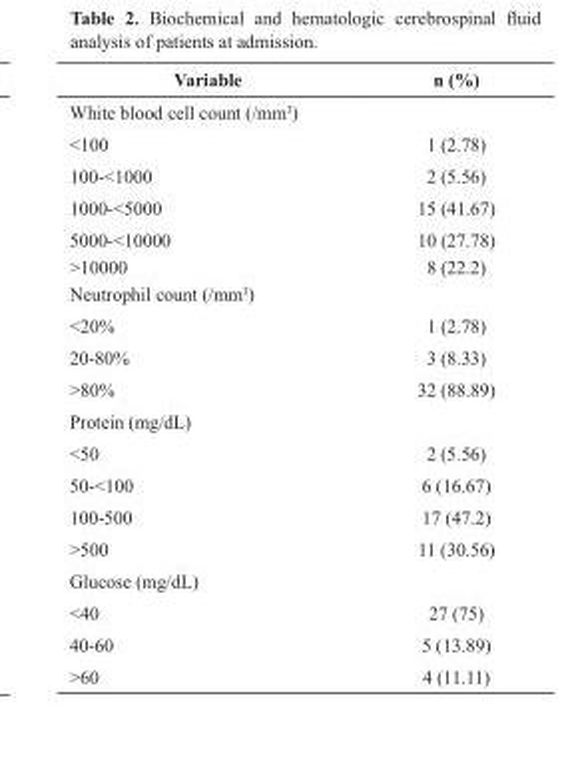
<table><thead><tr><td>Variable</td><td>n (%)</td></tr></thead><tbody><tr><td colspan="2">White blood cell count (/mm<sup>3</sup>)</td></tr><tr><td>&lt;100</td><td>1 (2.78)</td></tr><tr><td>100-&lt;1000</td><td>2 (5.56)</td></tr><tr><td>1000-&lt;5000</td><td>15 (41.67)</td></tr><tr><td>5000-&lt;10000</td><td>10 (27.78)</td></tr><tr><td>&gt;10000</td><td>8 (22.2)</td></tr><tr><td colspan="2">Neutrophil count (/mm<sup>3</sup>)</td></tr><tr><td>&lt;20%</td><td>1 (2.78)</td></tr><tr><td>20-80%</td><td>3 (8.33)</td></tr><tr><td>&gt;80%</td><td>32 (88.89)</td></tr><tr><td colspan="2">Protein (mg/dL)</td></tr><tr><td>&lt;50</td><td>2 (5.56)</td></tr><tr><td>50-&lt;100</td><td>6 (16.67)</td></tr><tr><td>100-500</td><td>17 (47.2)</td></tr><tr><td>&gt;500</td><td>11 (30.56)</td></tr><tr><td colspan="2">Glucose (mg/dL)</td></tr><tr><td>&lt;40</td><td>27 (75)</td></tr><tr><td>40-60</td><td>5 (13.89)</td></tr><tr><td>&gt;60</td><td>4 (11.11)</td></tr></tbody></table>